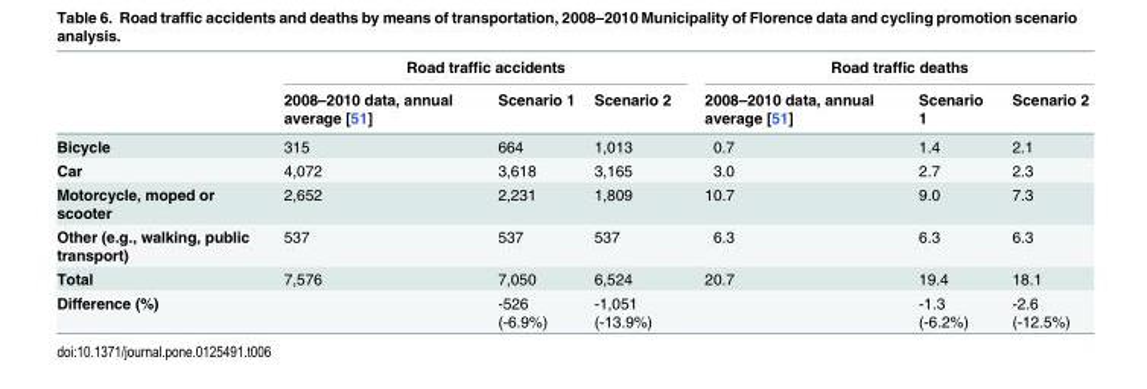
<table><thead><tr><td rowspan="2"></td><td colspan="3">Road traffic accidents</td><td colspan="3">Road traffic deaths</td></tr><tr><td>2008–2010 data, annual average [51]</td><td>Scenario 1</td><td>Scenario 2</td><td>2008–2010 data, annual average [51]</td><td>Scenario 1</td><td>Scenario 2</td></tr></thead><tbody><tr><td>Bicycle</td><td>315</td><td>664</td><td>1,013</td><td>0.7</td><td>1.4</td><td>2.1</td></tr><tr><td>Car</td><td>4,072</td><td>3,618</td><td>3,165</td><td>3.0</td><td>2.7</td><td>2.3</td></tr><tr><td>Motorcycle, moped or scooter</td><td>2,652</td><td>2,231</td><td>1,809</td><td>10.7</td><td>9.0</td><td>7.3</td></tr><tr><td>Other (e.g., walking, public transport)</td><td>537</td><td>537</td><td>537</td><td>6.3</td><td>6.3</td><td>6.3</td></tr><tr><td>Total</td><td>7,576</td><td>7,050</td><td>6,524</td><td>20.7</td><td>19.4</td><td>18.1</td></tr><tr><td>Difference (%)</td><td></td><td>-526 (-6.9%)</td><td>-1,051 (-13.9%)</td><td></td><td>-1.3 (-6.2%)</td><td>-2.6 (-12.5%)</td></tr></tbody></table>